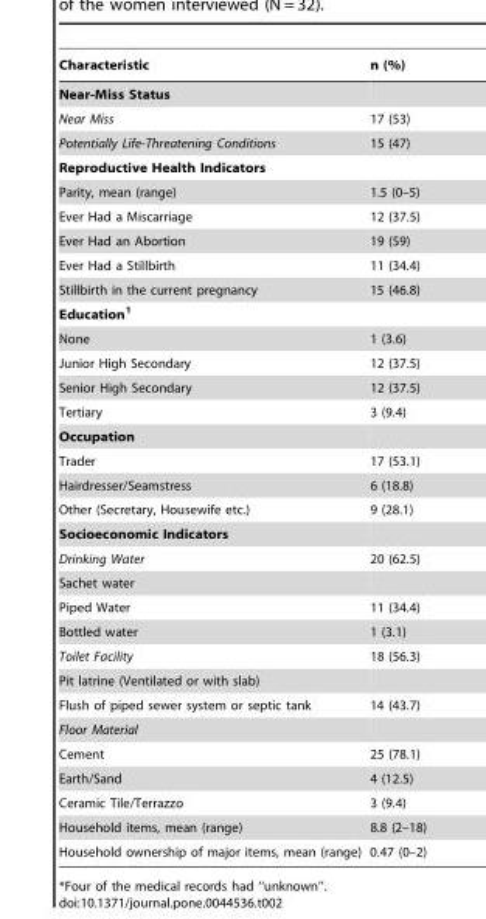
<table><thead><tr><td>Characteristic</td><td>n (%)</td></tr></thead><tbody><tr><td colspan="2">Near-Miss Status</td></tr><tr><td>Near Miss</td><td>17 (53)</td></tr><tr><td>Potentially Life-Threatening Conditions</td><td>15 (47)</td></tr><tr><td colspan="2">Reproductive Health Indicators</td></tr><tr><td>Parity, mean (range)</td><td>1.5 (0–5)</td></tr><tr><td>Ever Had a Miscarriage</td><td>12 (37.5)</td></tr><tr><td>Ever Had an Abortion</td><td>19 (59)</td></tr><tr><td>Ever Had a Stillbirth</td><td>11 (34.4)</td></tr><tr><td>Stillbirth in the current pregnancy</td><td>15 (46.8)</td></tr><tr><td colspan="2">Education<sup>1</sup></td></tr><tr><td>None</td><td>1 (3.6)</td></tr><tr><td>Junior High Secondary</td><td>12 (37.5)</td></tr><tr><td>Senior High Secondary</td><td>12 (37.5)</td></tr><tr><td>Tertiary</td><td>3 (9.4)</td></tr><tr><td colspan="2">Occupation</td></tr><tr><td>Trader</td><td>17 (53.1)</td></tr><tr><td>Hairdresser/Seamstress</td><td>6 (18.8)</td></tr><tr><td>Other (Secretary, Housewife etc.)</td><td>9 (28.1)</td></tr><tr><td colspan="2">Socioeconomic Indicators</td></tr><tr><td>Drinking Water</td><td>20 (62.5)</td></tr><tr><td colspan="2">Sachet water</td></tr><tr><td>Piped Water</td><td>11 (34.4)</td></tr><tr><td>Bottled water</td><td>1 (3.1)</td></tr><tr><td>Toilet Facility</td><td>18 (56.3)</td></tr><tr><td colspan="2">Pit latrine (Ventilated or with slab)</td></tr><tr><td>Flush of piped sewer system or septic tank</td><td>14 (43.7)</td></tr><tr><td colspan="2">Floor Material</td></tr><tr><td>Cement</td><td>25 (78.1)</td></tr><tr><td>Earth/Sand</td><td>4 (12.5)</td></tr><tr><td>Ceramic Tile/Terrazzo</td><td>3 (9.4)</td></tr><tr><td>Household items, mean (range)</td><td>8.8 (2–18)</td></tr><tr><td>Household ownership of major items, mean (range)</td><td>0.47 (0–2)</td></tr></tbody></table>